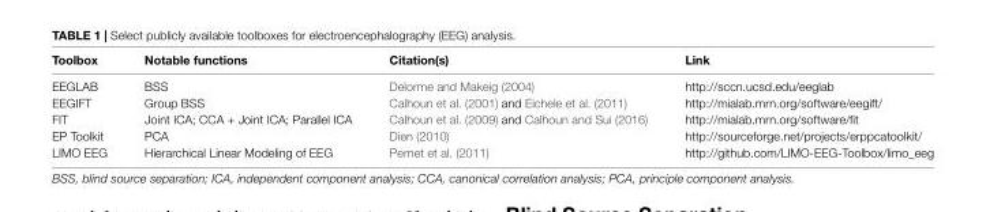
<table><thead><tr><td>Toolbox</td><td>Notable functions</td><td>Citation(s)</td><td>Link</td></tr></thead><tbody><tr><td>EEGLAB</td><td>BSS</td><td>Delorme and Makeig (2004)</td><td>http://sccn.ucsd.edu/eeglab</td></tr><tr><td>EEGIFT</td><td>Group BSS</td><td>Calhoun et al. (2001) and Eichele et al. (2011)</td><td>http://mialab.mrn.org/software/eegift/</td></tr><tr><td>FIT</td><td>Joint ICA; CCA + Joint ICA; Parallel ICA</td><td>Calhoun et al. (2009) and Calhoun and Sui (2016)</td><td>http://mialab.mrn.org/software/fit</td></tr><tr><td>EP Toolkit</td><td>PCA</td><td>Dien (2010)</td><td>http://sourceforge.net/projects/erppcatoolkit/</td></tr><tr><td>LIMO EEG</td><td>Hierarchical Linear Modeling of EEG</td><td>Pernet et al. (2011)</td><td>http://github.com/LIMO-EEG-Toolbox/limo_eeg</td></tr></tbody></table>